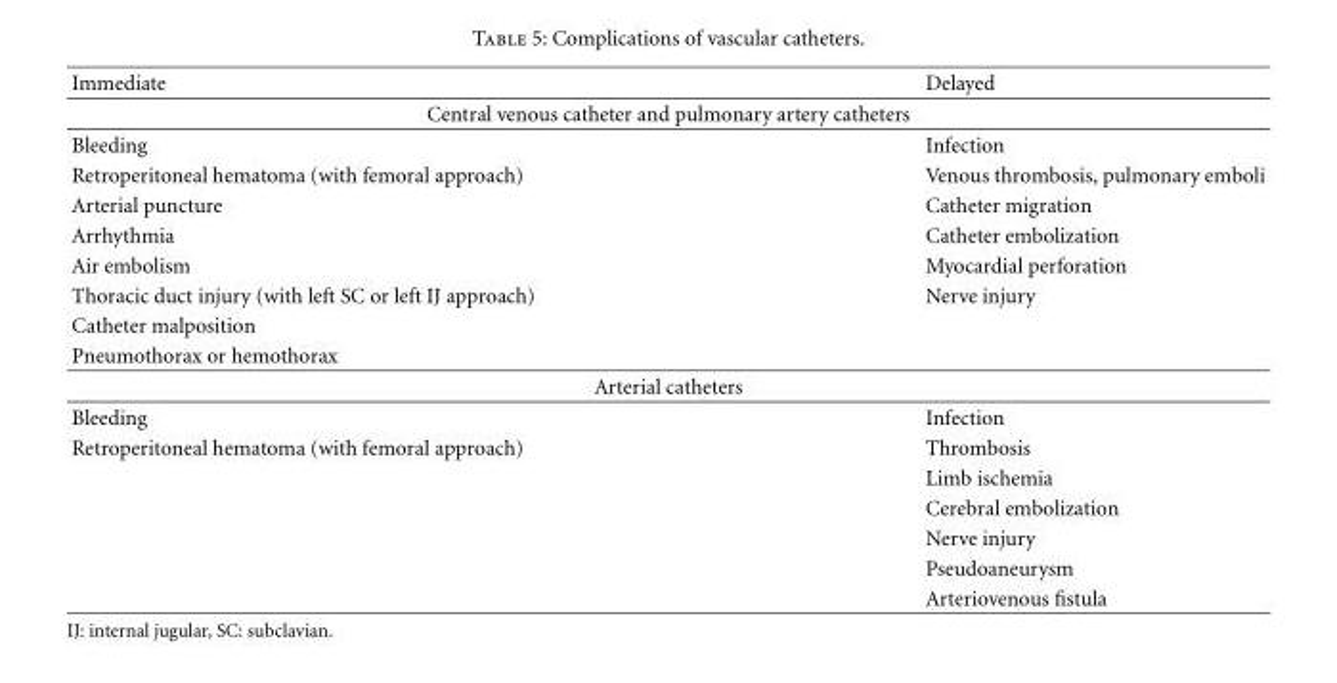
<table><thead><tr><td>Immediate</td><td>Delayed</td></tr></thead><tbody><tr><td colspan="2">Central venous catheter and pulmonary artery catheters</td></tr><tr><td>Bleeding</td><td>Infection</td></tr><tr><td>Retroperitoneal hematoma (with femoral approach)</td><td>Venous thrombosis, pulmonary emboli</td></tr><tr><td>Arterial puncture</td><td>Catheter migration</td></tr><tr><td>Arrhythmia</td><td>Catheter embolization</td></tr><tr><td>Air embolism</td><td>Myocardial perforation</td></tr><tr><td>Thoracic duct injury (with left SC or left IJ approach)</td><td>Nerve injury</td></tr><tr><td colspan="2">Catheter malposition</td></tr><tr><td colspan="2">Pneumothorax or hemothorax</td></tr><tr><td colspan="2">Arterial catheters</td></tr><tr><td>Bleeding</td><td>Infection</td></tr><tr><td rowspan="6">Retroperitoneal hematoma (with femoral approach)</td><td>Thrombosis</td></tr><tr><td>Limb ischemia</td></tr><tr><td>Cerebral embolization</td></tr><tr><td>Nerve injury</td></tr><tr><td>Pseudoaneurysm</td></tr><tr><td>Arteriovenous fistula</td></tr></tbody></table>